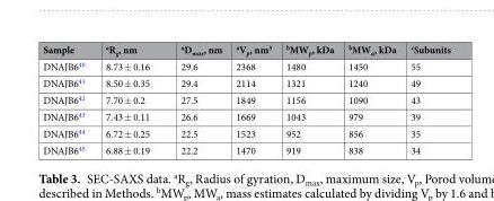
<table><thead><tr><td>Sample</td><td><sup>a</sup>R<sub>g</sub>, nm</td><td><sup>a</sup>D<sub>max</sub>, nm</td><td><sup>a</sup>V<sub>p</sub>, nm<sup>3</sup></td><td><sup>b</sup>MW<sub>p</sub>, kDa</td><td><sup>b</sup>MW<sub>a</sub>, kDa</td><td><sup>c</sup>Subunits</td></tr></thead><tbody><tr><td>DNAJB6<sup>40</sup></td><td>8.73 ± 0.16</td><td>29.6</td><td>2368</td><td>1480</td><td>1450</td><td>55</td></tr><tr><td>DNAJB6<sup>41</sup></td><td>8.50 ± 0.35</td><td>29.4</td><td>2114</td><td>1321</td><td>1240</td><td>49</td></tr><tr><td>DNAJB6<sup>42</sup></td><td>7.70 ± 0.2</td><td>27.5</td><td>1849</td><td>1156</td><td>1090</td><td>43</td></tr><tr><td>DNAJB6<sup>43</sup></td><td>7.43 ± 0.11</td><td>26.6</td><td>1669</td><td>1043</td><td>979</td><td>39</td></tr><tr><td>DNAJB6<sup>44</sup></td><td>6.72 ± 0.25</td><td>22.5</td><td>1523</td><td>952</td><td>856</td><td>35</td></tr><tr><td>DNAJB6<sup>45</sup></td><td>6.88 ± 0.19</td><td>22.2</td><td>1470</td><td>919</td><td>838</td><td>34</td></tr></tbody></table>